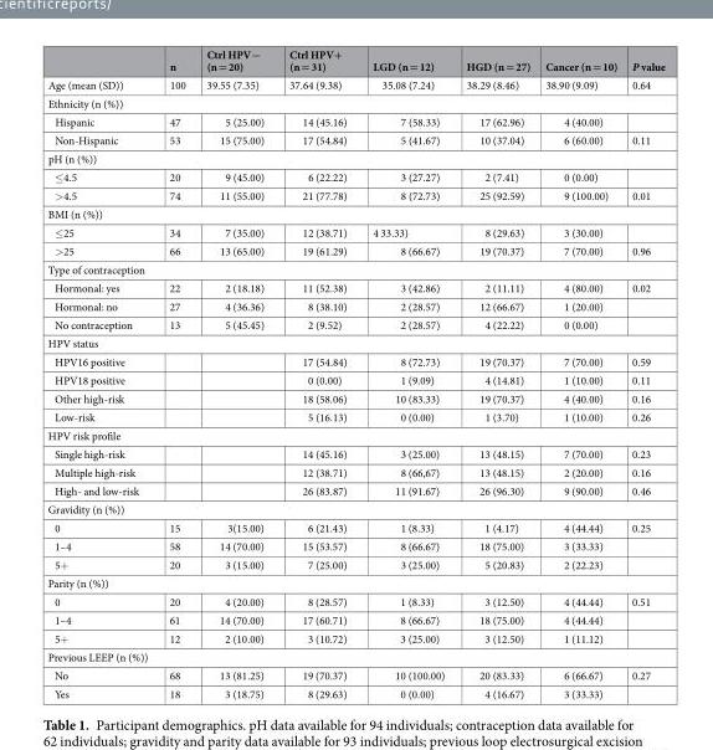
<table><thead><tr><td></td><td>n</td><td>Ctrl HPV− (n = 20)</td><td>Ctrl HPV+ (n = 31)</td><td>LGD (n = 12)</td><td>HGD (n = 27)</td><td>Cancer (n = 10)</td><td>P value</td></tr></thead><tbody><tr><td>Age (mean (SD))</td><td>100</td><td>39.55 (7.35)</td><td>37.64 (9.38)</td><td>35.08 (7.24)</td><td>38.29 (8.46)</td><td>38.90 (9.09)</td><td>0.64</td></tr><tr><td colspan="8">Ethnicity (n (%))</td></tr><tr><td>Hispanic</td><td>47</td><td>5 (25.00)</td><td>14 (45.16)</td><td>7 (58.33)</td><td>17 (62.96)</td><td>4 (40.00)</td><td></td></tr><tr><td>Non-Hispanic</td><td>53</td><td>15 (75.00)</td><td>17 (54.84)</td><td>5 (41.67)</td><td>10 (37.04)</td><td>6 (60.00)</td><td>0.11</td></tr><tr><td colspan="8">pH (n (%))</td></tr><tr><td>≤4.5</td><td>20</td><td>9 (45.00)</td><td>6 (22.22)</td><td>3 (27.27)</td><td>2 (7.41)</td><td>0 (0.00)</td><td></td></tr><tr><td>&gt;4.5</td><td>74</td><td>11 (55.00)</td><td>21 (77.78)</td><td>8 (72.73)</td><td>25 (92.59)</td><td>9 (100.00)</td><td>0.01</td></tr><tr><td colspan="8">BMI (n (%))</td></tr><tr><td>≤25</td><td>34</td><td>7 (35.00)</td><td>12 (38.71)</td><td>4 33.33)</td><td>8 (29.63)</td><td>3 (30.00)</td><td></td></tr><tr><td>&gt;25</td><td>66</td><td>13 (65.00)</td><td>19 (61.29)</td><td>8 (66.67)</td><td>19 (70.37)</td><td>7 (70.00)</td><td>0.96</td></tr><tr><td colspan="8">Type of contraception</td></tr><tr><td>Hormonal: yes</td><td>22</td><td>2 (18.18)</td><td>11 (52.38)</td><td>3 (42.86)</td><td>2 (11.11)</td><td>4 (80.00)</td><td>0.02</td></tr><tr><td>Hormonal: no</td><td>27</td><td>4 (36.36)</td><td>8 (38.10)</td><td>2 (28.57)</td><td>12 (66.67)</td><td>1 (20.00)</td><td></td></tr><tr><td>No contraception</td><td>13</td><td>5 (45.45)</td><td>2 (9.52)</td><td>2 (28.57)</td><td>4 (22.22)</td><td>0 (0.00)</td><td></td></tr><tr><td colspan="8">HPV status</td></tr><tr><td>HPV16 positive</td><td></td><td></td><td>17 (54.84)</td><td>8 (72.73)</td><td>19 (70.37)</td><td>7 (70.00)</td><td>0.59</td></tr><tr><td>HPV18 positive</td><td></td><td></td><td>0 (0.00)</td><td>1 (9.09)</td><td>4 (14.81)</td><td>1 (10.00)</td><td>0.11</td></tr><tr><td>Other high-risk</td><td></td><td></td><td>18 (58.06)</td><td>10 (83.33)</td><td>19 (70.37)</td><td>4 (40.00)</td><td>0.16</td></tr><tr><td>Low-risk</td><td></td><td></td><td>5 (16.13)</td><td>0 (0.00)</td><td>1 (3.70)</td><td>1 (10.00)</td><td>0.26</td></tr><tr><td colspan="8">HPV risk profile</td></tr><tr><td>Single high-risk</td><td></td><td></td><td>14 (45.16)</td><td>3 (25.00)</td><td>13 (48.15)</td><td>7 (70.00)</td><td>0.23</td></tr><tr><td>Multiple high-risk</td><td></td><td></td><td>12 (38.71)</td><td>8 (66,67)</td><td>13 (48.15)</td><td>2 (20.00)</td><td>0.16</td></tr><tr><td>High- and low-risk</td><td></td><td></td><td>26 (83.87)</td><td>11 (91.67)</td><td>26 (96.30)</td><td>9 (90.00)</td><td>0.46</td></tr><tr><td colspan="8">Gravidity (n (%))</td></tr><tr><td>0</td><td>15</td><td>3(15.00)</td><td>6 (21.43)</td><td>1 (8.33)</td><td>1 (4.17)</td><td>4 (44.44)</td><td>0.25</td></tr><tr><td>1–4</td><td>58</td><td>14 (70.00)</td><td>15 (53.57)</td><td>8 (66.67)</td><td>18 (75.00)</td><td>3 (33.33)</td><td></td></tr><tr><td>5+</td><td>20</td><td>3 (15.00)</td><td>7 (25.00)</td><td>3 (25.00)</td><td>5 (20.83)</td><td>2 (22.23)</td><td></td></tr><tr><td colspan="8">Parity (n (%))</td></tr><tr><td>0</td><td>20</td><td>4 (20.00)</td><td>8 (28.57)</td><td>1 (8.33)</td><td>3 (12.50)</td><td>4 (44.44)</td><td>0.51</td></tr><tr><td>1–4</td><td>61</td><td>14 (70.00)</td><td>17 (60.71)</td><td>8 (66.67)</td><td>18 (75.00)</td><td>4 (44.44)</td><td></td></tr><tr><td>5+</td><td>12</td><td>2 (10.00)</td><td>3 (10.72)</td><td>3 (25.00)</td><td>3 (12.50)</td><td>1 (11.12)</td><td></td></tr><tr><td colspan="8">Previous LEEP (n (%))</td></tr><tr><td>No</td><td>68</td><td>13 (81.25)</td><td>19 (70.37)</td><td>10 (100.00)</td><td>20 (83.33)</td><td>6 (66.67)</td><td>0.27</td></tr><tr><td>Yes</td><td>18</td><td>3 (18.75)</td><td>8 (29.63)</td><td>0 (0.00)</td><td>4 (16.67)</td><td>3 (33.33)</td><td></td></tr></tbody></table>